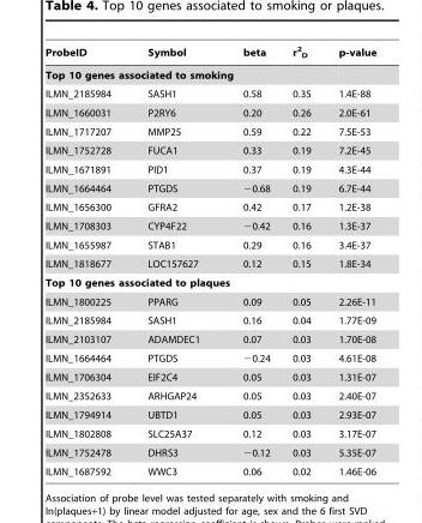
<table><thead><tr><td>ProbeID</td><td>Symbol</td><td>beta</td><td>r<sup>2</sup> <sub>D</sub></td><td>p-value</td></tr></thead><tbody><tr><td colspan="5">Top 10 genes associated to smoking</td></tr><tr><td>ILMN_2185984</td><td>SASH1</td><td>0.58</td><td>0.35</td><td>1.4E-88</td></tr><tr><td>ILMN_1660031</td><td>P2RY6</td><td>0.20</td><td>0.26</td><td>2.0E-61</td></tr><tr><td>ILMN_1717207</td><td>MMP25</td><td>0.59</td><td>0.22</td><td>7.5E-53</td></tr><tr><td>ILMN_1752728</td><td>FUCA1</td><td>0.33</td><td>0.19</td><td>7.2E-45</td></tr><tr><td>ILMN_1671891</td><td>PID1</td><td>0.37</td><td>0.19</td><td>4.3E-44</td></tr><tr><td>ILMN_1664464</td><td>PTGDS</td><td>−0.68</td><td>0.19</td><td>6.7E-44</td></tr><tr><td>ILMN_1656300</td><td>GFRA2</td><td>0.42</td><td>0.17</td><td>1.2E-38</td></tr><tr><td>ILMN_1708303</td><td>CYP4F22</td><td>−0.42</td><td>0.16</td><td>1.3E-37</td></tr><tr><td>ILMN_1655987</td><td>STAB1</td><td>0.29</td><td>0.16</td><td>3.4E-37</td></tr><tr><td>ILMN_1818677</td><td>LOC157627</td><td>0.12</td><td>0.15</td><td>1.8E-34</td></tr><tr><td colspan="5">Top 10 genes associated to plaques</td></tr><tr><td>ILMN_1800225</td><td>PPARG</td><td>0.09</td><td>0.05</td><td>2.26E-11</td></tr><tr><td>ILMN_2185984</td><td>SASH1</td><td>0.16</td><td>0.04</td><td>1.77E-09</td></tr><tr><td>ILMN_2103107</td><td>ADAMDEC1</td><td>0.07</td><td>0.03</td><td>1.70E-08</td></tr><tr><td>ILMN_1664464</td><td>PTGDS</td><td>−0.24</td><td>0.03</td><td>4.61E-08</td></tr><tr><td>ILMN_1706304</td><td>EIF2C4</td><td>0.05</td><td>0.03</td><td>1.31E-07</td></tr><tr><td>ILMN_2352633</td><td>ARHGAP24</td><td>0.05</td><td>0.03</td><td>2.40E-07</td></tr><tr><td>ILMN_1794914</td><td>UBTD1</td><td>0.05</td><td>0.03</td><td>2.93E-07</td></tr><tr><td>ILMN_1802808</td><td>SLC25A37</td><td>0.12</td><td>0.03</td><td>3.17E-07</td></tr><tr><td>ILMN_1752478</td><td>DHRS3</td><td>−0.12</td><td>0.03</td><td>5.35E-07</td></tr><tr><td>ILMN_1687592</td><td>WWC3</td><td>0.06</td><td>0.02</td><td>1.46E-06</td></tr></tbody></table>